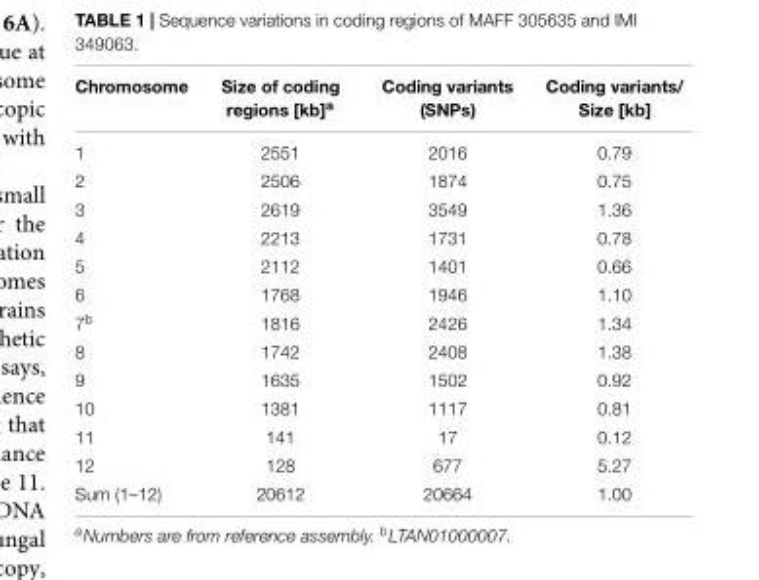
<table><thead><tr><td>Chromosome</td><td>Size of coding regions [kb]<sup>a</sup></td><td>Coding variants (SNPs)</td><td>Coding variants/ Size [kb]</td></tr></thead><tbody><tr><td>1</td><td>2551</td><td>2016</td><td>0.79</td></tr><tr><td>2</td><td>2506</td><td>1874</td><td>0.75</td></tr><tr><td>3</td><td>2619</td><td>3549</td><td>1.36</td></tr><tr><td>4</td><td>2213</td><td>1731</td><td>0.78</td></tr><tr><td>5</td><td>2112</td><td>1401</td><td>0.66</td></tr><tr><td>6</td><td>1768</td><td>1946</td><td>1.10</td></tr><tr><td>7<sup>b</sup></td><td>1816</td><td>2426</td><td>1.34</td></tr><tr><td>8</td><td>1742</td><td>2408</td><td>1.38</td></tr><tr><td>9</td><td>1635</td><td>1502</td><td>0.92</td></tr><tr><td>10</td><td>1381</td><td>1117</td><td>0.81</td></tr><tr><td>11</td><td>141</td><td>17</td><td>0.12</td></tr><tr><td>12</td><td>128</td><td>677</td><td>5.27</td></tr><tr><td>Sum (1–12)</td><td>20612</td><td>20664</td><td>1.00</td></tr></tbody></table>